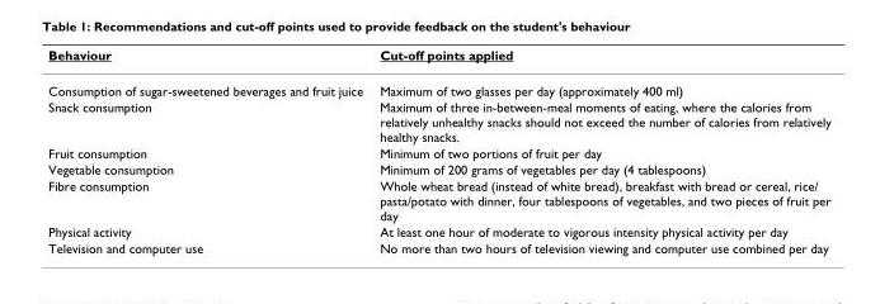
<table><thead><tr><td>Behaviour</td><td>Cut-off points applied</td></tr></thead><tbody><tr><td>Consumption of sugar-sweetened beverages and fruit juice</td><td>Maximum of two glasses per day (approximately 400 ml)</td></tr><tr><td>Snack consumption</td><td>Maximum of three in-between-meal moments of eating, where the calories from relatively unhealthy snacks should not exceed the number of calories from relatively healthy snacks.</td></tr><tr><td>Fruit consumption</td><td>Minimum of two portions of fruit per day</td></tr><tr><td>Vegetable consumption</td><td>Minimum of 200 grams of vegetables per day (4 tablespoons)</td></tr><tr><td>Fibre consumption</td><td>Whole wheat bread (instead of white bread), breakfast with bread or cereal, rice/ pasta/potato with dinner, four tablespoons of vegetables, and two pieces of fruit per day</td></tr><tr><td>Physical activity</td><td>At least one hour of moderate to vigorous intensity physical activity per day</td></tr><tr><td>Television and computer use</td><td>No more than two hours of television viewing and computer use combined per day</td></tr></tbody></table>